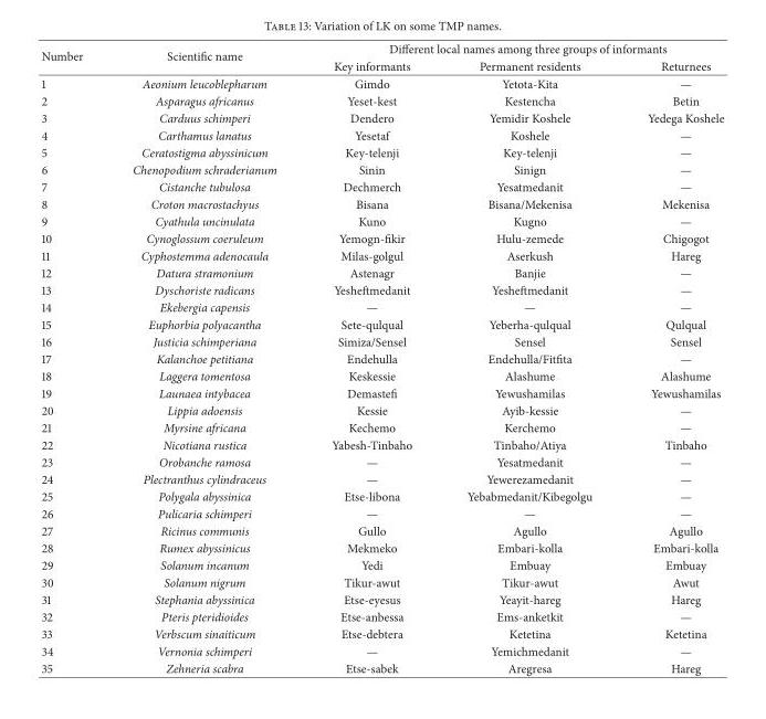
<table><thead><tr><td rowspan="2">Number</td><td rowspan="2">Scientific name</td><td colspan="3">Different local names among three groups of informants</td></tr><tr><td>Key informants</td><td>Permanent residents</td><td>Returnees</td></tr></thead><tbody><tr><td>1</td><td>Aeonium leucoblepharum</td><td>Gimdo</td><td>Yetota-Kita</td><td>—</td></tr><tr><td>2</td><td>Asparagus africanus</td><td>Yeset-kest</td><td>Kestencha</td><td>Betin</td></tr><tr><td>3</td><td>Carduus schimperi</td><td>Dendero</td><td>Yemidir Koshele</td><td>Yedega Koshele</td></tr><tr><td>4</td><td>Carthamus lanatus</td><td>Yesetaf</td><td>Koshele</td><td>—</td></tr><tr><td>5</td><td>Ceratostigma abyssinicum</td><td>Key-telenji</td><td>Key-telenji</td><td>—</td></tr><tr><td>6</td><td>Chenopodium schraderianum</td><td>Sinin</td><td>Sinign</td><td>—</td></tr><tr><td>7</td><td>Cistanche tubulosa</td><td>Dechmerch</td><td>Yesatmedanit</td><td>—</td></tr><tr><td>8</td><td>Croton macrostachyus</td><td>Bisana</td><td>Bisana/Mekenisa</td><td>Mekenisa</td></tr><tr><td>9</td><td>Cyathula uncinulata</td><td>Kuno</td><td>Kugno</td><td>—</td></tr><tr><td>10</td><td>Cynoglossum coeruleum</td><td>Yemogn-fikir</td><td>Hulu-zemede</td><td>Chigogot</td></tr><tr><td>11</td><td>Cyphostemma adenocaula</td><td>Milas-golgul</td><td>Aserkush</td><td>Hareg</td></tr><tr><td>12</td><td>Datura stramonium</td><td>Astenagr</td><td>Banjie</td><td>—</td></tr><tr><td>13</td><td>Dyschoriste radicans</td><td>Yesheftmedanit</td><td>Yesheftmedanit</td><td>—</td></tr><tr><td>14</td><td>Ekebergia capensis</td><td>—</td><td>—</td><td>—</td></tr><tr><td>15</td><td>Euphorbia polyacantha</td><td>Sete-qulqual</td><td>Yeberha-qulqual</td><td>Qulqual</td></tr><tr><td>16</td><td>Justicia schimperiana</td><td>Simiza/Sensel</td><td>Sensel</td><td>Sensel</td></tr><tr><td>17</td><td>Kalanchoe petitiana</td><td>Endehulla</td><td>Endehulla/Fitfita</td><td>—</td></tr><tr><td>18</td><td>Laggera tomentosa</td><td>Keskessie</td><td>Alashume</td><td>Alashume</td></tr><tr><td>19</td><td>Launaea intybacea</td><td>Demastefi</td><td>Yewushamilas</td><td>Yewushamilas</td></tr><tr><td>20</td><td>Lippia adoensis</td><td>Kessie</td><td>Ayib-kessie</td><td>—</td></tr><tr><td>21</td><td>Myrsine africana</td><td>Kechemo</td><td>Kerchemo</td><td>—</td></tr><tr><td>22</td><td>Nicotiana rustica</td><td>Yabesh-Tinbaho</td><td>Tinbaho/Atiya</td><td>Tinbaho</td></tr><tr><td>23</td><td>Orobanche ramosa</td><td>—</td><td>Yesatmedanit</td><td>—</td></tr><tr><td>24</td><td>Plectranthus cylindraceus</td><td>—</td><td>Yewerezamedanit</td><td>—</td></tr><tr><td>25</td><td>Polygala abyssinica</td><td>Etse-libona</td><td>Yebabmedanit/Kibegolgu</td><td>—</td></tr><tr><td>26</td><td>Pulicaria schimperi</td><td>—</td><td>—</td><td>—</td></tr><tr><td>27</td><td>Ricinus communis</td><td>Gullo</td><td>Agullo</td><td>Agullo</td></tr><tr><td>28</td><td>Rumex abyssinicus</td><td>Mekmeko</td><td>Embari-kolla</td><td>Embari-kolla</td></tr><tr><td>29</td><td>Solanum incanum</td><td>Yedi</td><td>Embuay</td><td>Embuay</td></tr><tr><td>30</td><td>Solanum nigrum</td><td>Tikur-awut</td><td>Tikur-awut</td><td>Awut</td></tr><tr><td>31</td><td>Stephania abyssinica</td><td>Etse-eyesus</td><td>Yeayit-hareg</td><td>Hareg</td></tr><tr><td>32</td><td>Pteris pteridioides</td><td>Etse-anbessa</td><td>Ems-anketkit</td><td>—</td></tr><tr><td>33</td><td>Verbscum sinaiticum</td><td>Etse-debtera</td><td>Ketetina</td><td>Ketetina</td></tr><tr><td>34</td><td>Vernonia schimperi</td><td>—</td><td>Yemichmedanit</td><td>—</td></tr><tr><td>35</td><td>Zehneria scabra</td><td>Etse-sabek</td><td>Aregresa</td><td>Hareg</td></tr></tbody></table>